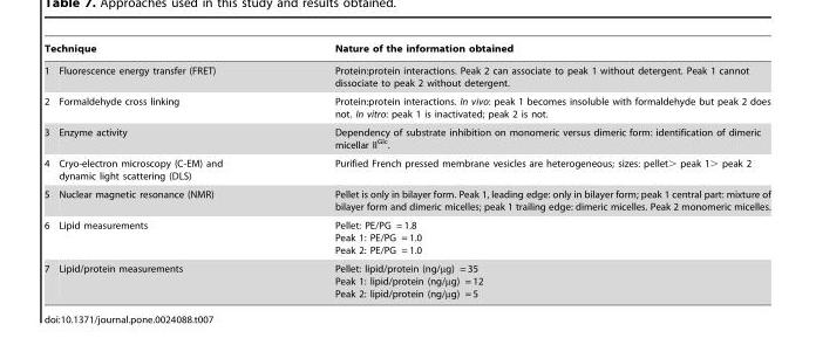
<table><thead><tr><td colspan="2">Technique</td><td rowspan="2">Nature of the information obtained Protein:protein interactions. Peak 2 can associate to peak 1 without detergent. Peak 1 cannot dissociate to peak 2 without detergent.</td></tr><tr><td>1</td><td>Fluorescence energy transfer (FRET)</td></tr></thead><tbody><tr><td>2</td><td>Formaldehyde cross linking</td><td>Protein:protein interactions. In vivo: peak 1 becomes insoluble with formaldehyde but peak 2 does not. In vitro: peak 1 is inactivated; peak 2 is not.</td></tr><tr><td>3</td><td>Enzyme activity</td><td>Dependency of substrate inhibition on monomeric versus dimeric form: identification of dimeric micellar II<sup>Glc</sup>.</td></tr><tr><td>4</td><td>Cryo-electron microscopy (C-EM) and dynamic light scattering (DLS)</td><td>Purified French pressed membrane vesicles are heterogeneous; sizes: pellet&gt; peak 1&gt; peak 2</td></tr><tr><td>5</td><td>Nuclear magnetic resonance (NMR)</td><td>Pellet is only in bilayer form. Peak 1, leading edge: only in bilayer form; peak 1 central part: mixture of bilayer form and dimeric micelles; peak 1 trailing edge: dimeric micelles. Peak 2 monomeric micelles.</td></tr><tr><td>6</td><td>Lipid measurements</td><td>Pellet: PE/PG = 1.8 Peak 1: PE/PG = 1.0 Peak 2: PE/PG = 1.0</td></tr><tr><td>7</td><td>Lipid/protein measurements</td><td>Pellet: lipid/protein (ng/µg) = 35 Peak 1: lipid/protein (ng/µg) = 12 Peak 2: lipid/protein (ng/µg) = 5</td></tr></tbody></table>